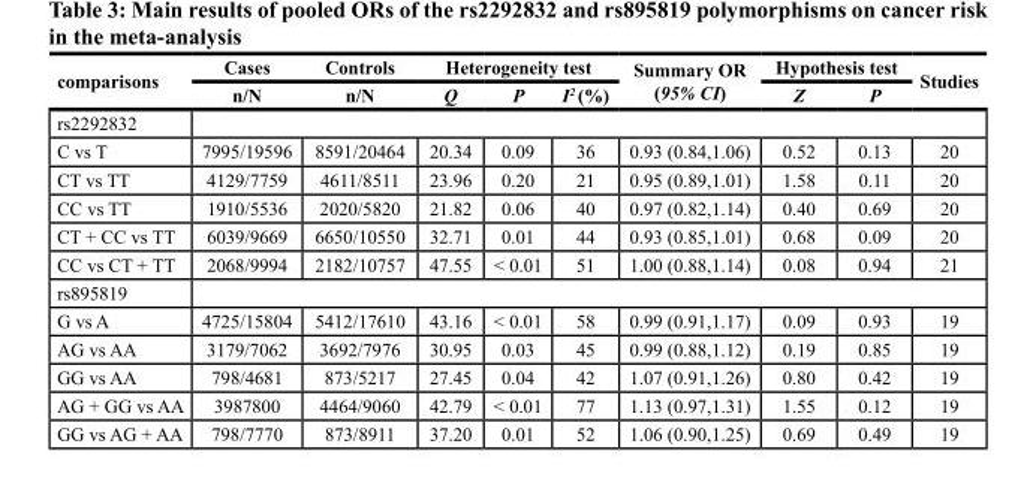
<table><thead><tr><td rowspan="2">comparisons</td><td rowspan="2">Cases n/N</td><td rowspan="2">Controls n/N</td><td colspan="3">Heterogeneity test</td><td rowspan="2">Summary OR (95% CI)</td><td colspan="2">Hypothesis test</td><td rowspan="2">Studies</td></tr><tr><td>Q</td><td>P</td><td>I<sup>2</sup> (%)</td><td>Z</td><td>P</td></tr></thead><tbody><tr><td colspan="10">rs2292832</td></tr><tr><td>C vs T</td><td>7995/19596</td><td>8591/20464</td><td>20.34</td><td>0.09</td><td>36</td><td>0.93 (0.84,1.06)</td><td>0.52</td><td>0.13</td><td>20</td></tr><tr><td>CT vs TT</td><td>4129/7759</td><td>4611/8511</td><td>23.96</td><td>0.20</td><td>21</td><td>0.95 (0.89,1.01)</td><td>1.58</td><td>0.11</td><td>20</td></tr><tr><td>CC vs TT</td><td>1910/5536</td><td>2020/5820</td><td>21.82</td><td>0.06</td><td>40</td><td>0.97 (0.82,1.14)</td><td>0.40</td><td>0.69</td><td>20</td></tr><tr><td>CT + CC vs TT</td><td>6039/9669</td><td>6650/10550</td><td>32.71</td><td>0.01</td><td>44</td><td>0.93 (0.85,1.01)</td><td>0.68</td><td>0.09</td><td>20</td></tr><tr><td>CC vs CT + TT</td><td>2068/9994</td><td>2182/10757</td><td>47.55</td><td>&lt; 0.01</td><td>51</td><td>1.00 (0.88,1.14)</td><td>0.08</td><td>0.94</td><td>21</td></tr><tr><td colspan="10">rs895819</td></tr><tr><td>G vs A</td><td>4725/15804</td><td>5412/17610</td><td>43.16</td><td>&lt; 0.01</td><td>58</td><td>0.99 (0.91,1.17)</td><td>0.09</td><td>0.93</td><td>19</td></tr><tr><td>AG vs AA</td><td>3179/7062</td><td>3692/7976</td><td>30.95</td><td>0.03</td><td>45</td><td>0.99 (0.88,1.12)</td><td>0.19</td><td>0.85</td><td>19</td></tr><tr><td>GG vs AA</td><td>798/4681</td><td>873/5217</td><td>27.45</td><td>0.04</td><td>42</td><td>1.07 (0.91,1.26)</td><td>0.80</td><td>0.42</td><td>19</td></tr><tr><td>AG + GG vs AA</td><td>3987800</td><td>4464/9060</td><td>42.79</td><td>&lt; 0.01</td><td>77</td><td>1.13 (0.97,1.31)</td><td>1.55</td><td>0.12</td><td>19</td></tr><tr><td>GG vs AG + AA</td><td>798/7770</td><td>873/8911</td><td>37.20</td><td>0.01</td><td>52</td><td>1.06 (0.90,1.25)</td><td>0.69</td><td>0.49</td><td>19</td></tr></tbody></table>